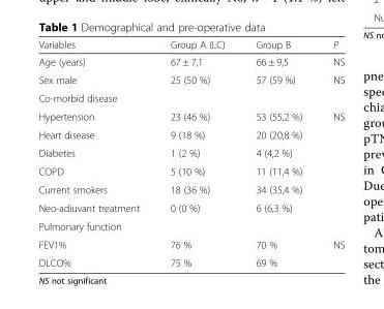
<table><thead><tr><td>Variables</td><td>Group A (LC)</td><td>Group B</td><td>P</td></tr></thead><tbody><tr><td>Age (years)</td><td>67 ± 7,1</td><td>66 ± 9,5</td><td>NS</td></tr><tr><td>Sex male</td><td>25 (50 %)</td><td>57 (59 %)</td><td>NS</td></tr><tr><td colspan="4">Co-morbid disease</td></tr><tr><td>Hypertension</td><td>23 (46 %)</td><td>53 (55,2 %)</td><td rowspan="6">NS</td></tr><tr><td>Heart disease</td><td>9 (18 %)</td><td>20 (20,8 %)</td></tr><tr><td>Diabetes</td><td>1 (2 %)</td><td>4 (4,2 %)</td></tr><tr><td>COPD</td><td>5 (10 %)</td><td>11 (11,4 %)</td></tr><tr><td>Current smokers</td><td>18 (36 %)</td><td>34 (35,4 %)</td></tr><tr><td>Neo-adiuvant treatment</td><td>0 (0 %)</td><td>6 (6,3 %)</td></tr><tr><td colspan="4">Pulmonary function</td></tr><tr><td>FEV1%</td><td>76 %</td><td>70 %</td><td rowspan="2">NS</td></tr><tr><td>DLCO%</td><td>75 %</td><td>69 %</td></tr></tbody></table>